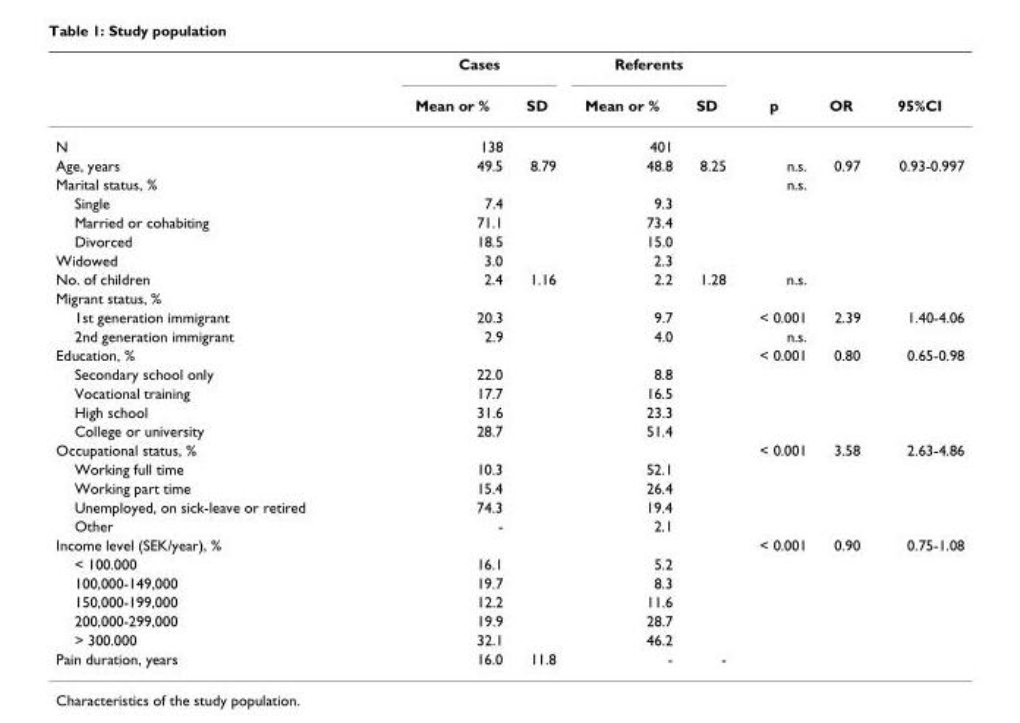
<table><thead><tr><td rowspan="2"></td><td colspan="2">Cases</td><td colspan="2">Referents</td><td rowspan="2">p</td><td rowspan="2">OR</td><td rowspan="2">95%CI</td></tr><tr><td>Mean or %</td><td>SD</td><td>Mean or %</td><td>SD</td></tr></thead><tbody><tr><td>N</td><td>138</td><td></td><td>401</td><td></td><td></td><td></td><td></td></tr><tr><td>Age, years</td><td>49.5</td><td>8.79</td><td>48.8</td><td>8.25</td><td>n.s.</td><td>0.97</td><td>0.93-0.997</td></tr><tr><td>Marital status, %</td><td></td><td></td><td></td><td></td><td>n.s.</td><td></td><td></td></tr><tr><td>Single</td><td>7.4</td><td></td><td>9.3</td><td></td><td></td><td></td><td></td></tr><tr><td>Married or cohabiting</td><td>71.1</td><td></td><td>73.4</td><td></td><td></td><td></td><td></td></tr><tr><td>Divorced</td><td>18.5</td><td></td><td>15.0</td><td></td><td></td><td></td><td></td></tr><tr><td>Widowed</td><td>3.0</td><td></td><td>2.3</td><td></td><td></td><td></td><td></td></tr><tr><td>No. of children</td><td>2.4</td><td>1.16</td><td>2.2</td><td>1.28</td><td>n.s.</td><td></td><td></td></tr><tr><td colspan="8">Migrant status, %</td></tr><tr><td>1st generation immigrant</td><td>20.3</td><td></td><td>9.7</td><td></td><td>&lt; 0.001</td><td>2.39</td><td>1.40-4.06</td></tr><tr><td>2nd generation immigrant</td><td>2.9</td><td></td><td>4.0</td><td></td><td>n.s.</td><td></td><td></td></tr><tr><td>Education, %</td><td></td><td></td><td></td><td></td><td>&lt; 0.001</td><td>0.80</td><td>0.65-0.98</td></tr><tr><td>Secondary school only</td><td>22.0</td><td></td><td>8.8</td><td></td><td></td><td></td><td></td></tr><tr><td>Vocational training</td><td>17.7</td><td></td><td>16.5</td><td></td><td></td><td></td><td></td></tr><tr><td>High school</td><td>31.6</td><td></td><td>23.3</td><td></td><td></td><td></td><td></td></tr><tr><td>College or university</td><td>28.7</td><td></td><td>51.4</td><td></td><td></td><td></td><td></td></tr><tr><td>Occupational status, %</td><td></td><td></td><td></td><td></td><td>&lt; 0.001</td><td>3.58</td><td>2.63-4.86</td></tr><tr><td>Working full time</td><td>10.3</td><td></td><td>52.1</td><td></td><td></td><td></td><td></td></tr><tr><td>Working part time</td><td>15.4</td><td></td><td>26.4</td><td></td><td></td><td></td><td></td></tr><tr><td>Unemployed, on sick-leave or retired</td><td>74.3</td><td></td><td>19.4</td><td></td><td></td><td></td><td></td></tr><tr><td>Other</td><td>-</td><td></td><td>2.1</td><td></td><td></td><td></td><td></td></tr><tr><td>Income level (SEK/year), %</td><td></td><td></td><td></td><td></td><td>&lt; 0.001</td><td>0.90</td><td>0.75-1.08</td></tr><tr><td>&lt; 100.000</td><td>16.1</td><td></td><td>5.2</td><td></td><td></td><td></td><td></td></tr><tr><td>100,000-149,000</td><td>19.7</td><td></td><td>8.3</td><td></td><td></td><td></td><td></td></tr><tr><td>150,000-199,000</td><td>12.2</td><td></td><td>11.6</td><td></td><td></td><td></td><td></td></tr><tr><td>200,000-299,000</td><td>19.9</td><td></td><td>28.7</td><td></td><td></td><td></td><td></td></tr><tr><td>&gt; 300.000</td><td>32.1</td><td></td><td>46.2</td><td></td><td></td><td></td><td></td></tr><tr><td>Pain duration, years</td><td>16.0</td><td>11.8</td><td>-</td><td>-</td><td></td><td></td><td></td></tr></tbody></table>